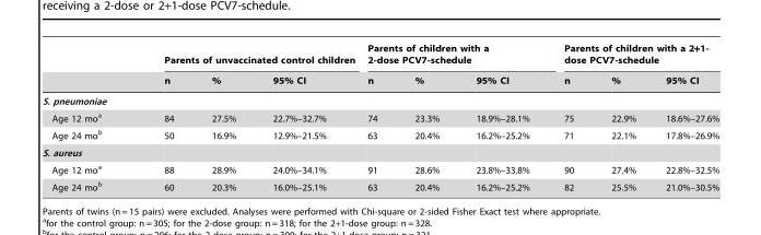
<table><thead><tr><td rowspan="2"></td><td colspan="3">Parents of unvaccinated control children</td><td colspan="3">Parents of children with a 2-dose PCV7-schedule</td><td colspan="3">Parents of children with a 2+1- dose PCV7-schedule</td></tr><tr><td>n</td><td>%</td><td>95% CI</td><td>n</td><td>%</td><td>95% CI</td><td>n</td><td>%</td><td>95% CI</td></tr></thead><tbody><tr><td colspan="10">S. pneumoniae</td></tr><tr><td>Age 12 mo<sup>a</sup></td><td>84</td><td>27.5%</td><td>22.7%–32.7%</td><td>74</td><td>23.3%</td><td>18.9%–28.1%</td><td>75</td><td>22.9%</td><td>18.6%–27.6%</td></tr><tr><td>Age 24 mo<sup>b</sup></td><td>50</td><td>16.9%</td><td>12.9%–21.5%</td><td>63</td><td>20.4%</td><td>16.2%–25.2%</td><td>71</td><td>22.1%</td><td>17.8%–26.9%</td></tr><tr><td colspan="10">S. aureus</td></tr><tr><td>Age 12 mo<sup>a</sup></td><td>88</td><td>28.9%</td><td>24.0%–34.1%</td><td>91</td><td>28.6%</td><td>23.8%–33.8%</td><td>90</td><td>27.4%</td><td>22.8%–32.5%</td></tr><tr><td>Age 24 mo<sup>b</sup></td><td>60</td><td>20.3%</td><td>16.0%–25.1%</td><td>63</td><td>20.4%</td><td>16.2%–25.2%</td><td>82</td><td>25.5%</td><td>21.0%–30.5%</td></tr></tbody></table>